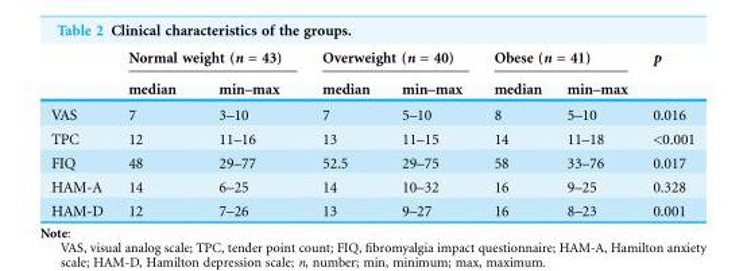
<table><thead><tr><td rowspan="2"></td><td colspan="2">Normal weight (n = 43)</td><td colspan="2">Overweight (n = 40)</td><td colspan="2">Obese (n = 41)</td><td rowspan="2">p</td></tr><tr><td>median</td><td>min–max</td><td>median</td><td>min–max</td><td>median</td><td>min–max</td></tr></thead><tbody><tr><td>VAS</td><td>7</td><td>3–10</td><td>7</td><td>5–10</td><td>8</td><td>5–10</td><td>0.016</td></tr><tr><td>TPC</td><td>12</td><td>11–16</td><td>13</td><td>11–15</td><td>14</td><td>11–18</td><td>&lt;0.001</td></tr><tr><td>FIQ</td><td>48</td><td>29–77</td><td>52.5</td><td>29–75</td><td>58</td><td>33–76</td><td>0.017</td></tr><tr><td>HAM-A</td><td>14</td><td>6–25</td><td>14</td><td>10–32</td><td>16</td><td>9–25</td><td>0.328</td></tr><tr><td>HAM-D</td><td>12</td><td>7–26</td><td>13</td><td>9–27</td><td>16</td><td>8–23</td><td>0.001</td></tr></tbody></table>